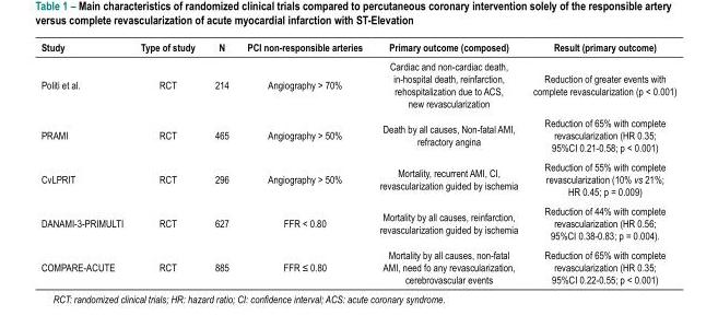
<table><thead><tr><td>Study</td><td>Type of study</td><td>N</td><td>PCI non-responsible arteries</td><td>Primary outcome (composed)</td><td>Result (primary outcome)</td></tr></thead><tbody><tr><td>Politi et al.</td><td>RCT</td><td>214</td><td>Angiography &gt; 70%</td><td>Cardiac and non-cardiac death, in-hospital death, reinfarction, rehospitalization due to ACS, new revascularization</td><td>Reduction of greater events with complete revascularization (p &lt; 0.001)</td></tr><tr><td>PRAMI</td><td>RCT</td><td>465</td><td>Angiography &gt; 50%</td><td>Death by all causes, Non-fatal AMI, refractory angina</td><td>Reduction of 65% with complete revascularization (HR 0.35; 95%CI 0.21-0.58; p &lt; 0.001)</td></tr><tr><td>CvLPRIT</td><td>RCT</td><td>296</td><td>Angiography &gt; 50%</td><td>Mortality, recurrent AMI, CI, revascularization guided by ischemia</td><td>Reduction of 55% with complete revascularization (10% vs 21%; HR 0.45; p = 0.009)</td></tr><tr><td>DANAMI-3-PRIMULTI</td><td>RCT</td><td>627</td><td>FFR &lt; 0.80</td><td>Mortality by all causes, reinfarction, revascularization guided by ischemia</td><td>Reduction of 44% with complete revascularization (HR 0.56; 95%CI 0.38-0.83; p = 0.004).</td></tr><tr><td>COMPARE-ACUTE</td><td>RCT</td><td>885</td><td>FFR ≤ 0.80</td><td>Mortality by all causes, non-fatal AMI, need fo any revascularization, cerebrovascular events</td><td>Reduction of 65% with complete revascularization (HR 0.35; 95%CI 0.22-0.55; p &lt; 0.001)</td></tr></tbody></table>